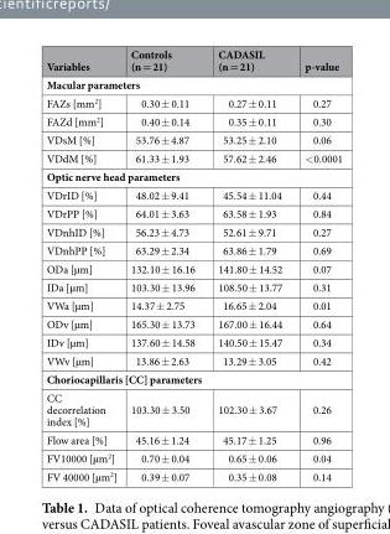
<table><thead><tr><td>Variables</td><td>Controls (n = 21)</td><td>CADASIL (n = 21)</td><td>p-value</td></tr></thead><tbody><tr><td colspan="4">Macular parameters</td></tr><tr><td>FAZs [mm<sup>2</sup>]</td><td>0.30 ± 0.11</td><td>0.27 ± 0.11</td><td>0.27</td></tr><tr><td>FAZd [mm<sup>2</sup>]</td><td>0.40 ± 0.14</td><td>0.35 ± 0.11</td><td>0.30</td></tr><tr><td>VDsM [%]</td><td>53.76 ± 4.87</td><td>53.25 ± 2.10</td><td>0.06</td></tr><tr><td>VDdM [%]</td><td>61.33 ± 1.93</td><td>57.62 ± 2.46</td><td>&lt;0.0001</td></tr><tr><td colspan="4">Optic nerve head parameters</td></tr><tr><td>VDrID [%]</td><td>48.02 ± 9.41</td><td>45.54 ± 11.04</td><td>0.44</td></tr><tr><td>VDrPP [%]</td><td>64.01 ± 3.63</td><td>63.58 ± 1.93</td><td>0.84</td></tr><tr><td>VDnhID [%]</td><td>56.23 ± 4.73</td><td>52.61 ± 9.71</td><td>0.27</td></tr><tr><td>VDnhPP [%]</td><td>63.29 ± 2.34</td><td>63.86 ± 1.79</td><td>0.69</td></tr><tr><td>ODa [µm]</td><td>132.10 ± 16.16</td><td>141.80 ± 14.52</td><td>0.07</td></tr><tr><td>IDa [µm]</td><td>103.30 ± 13.96</td><td>108.50 ± 13.77</td><td>0.31</td></tr><tr><td>VWa [µm]</td><td>14.37 ± 2.75</td><td>16.65 ± 2.04</td><td>0.01</td></tr><tr><td>ODv [µm]</td><td>165.30 ± 13.73</td><td>167.00 ± 16.44</td><td>0.64</td></tr><tr><td>IDv [µm]</td><td>137.60 ± 14.58</td><td>140.50 ± 15.47</td><td>0.34</td></tr><tr><td>VWv [µm]</td><td>13.86 ± 2.63</td><td>13.29 ± 3.05</td><td>0.42</td></tr><tr><td colspan="4">Choriocapillaris [CC] parameters</td></tr><tr><td>CC decorrelation index [%]</td><td>103.30 ± 3.50</td><td>102.30 ± 3.67</td><td>0.26</td></tr><tr><td>Flow area [%]</td><td>45.16 ± 1.24</td><td>45.17 ± 1.25</td><td>0.96</td></tr><tr><td>FV10000 [µm<sup>2</sup>]</td><td>0.70 ± 0.04</td><td>0.65 ± 0.06</td><td>0.04</td></tr><tr><td>FV 40000 [µm<sup>2</sup>]</td><td>0.39 ± 0.07</td><td>0.35 ± 0.08</td><td>0.14</td></tr></tbody></table>